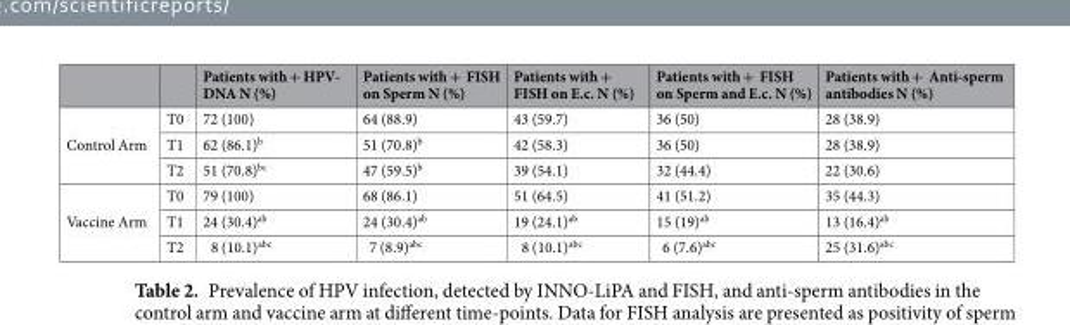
<table><thead><tr><td></td><td></td><td>Patients with + HPV- DNA N (%)</td><td>Patients with + FISH on Sperm N (%)</td><td>Patients with + FISH on E.c. N (%)</td><td>Patients with + FISH on Sperm and E.c. N (%)</td><td>Patients with + Anti-sperm antibodies N (%)</td></tr></thead><tbody><tr><td rowspan="3">Control Arm</td><td>T0</td><td>72 (100)</td><td>64 (88.9)</td><td>43 (59.7)</td><td>36 (50)</td><td>28 (38.9)</td></tr><tr><td>T1</td><td>62 (86.1)<sup>b</sup></td><td>51 (70.8)<sup>b</sup></td><td>42 (58.3)</td><td>36 (50)</td><td>28 (38.9)</td></tr><tr><td>T2</td><td>51 (70.8)<sup>bc</sup></td><td>47 (59.5)<sup>b</sup></td><td>39 (54.1)</td><td>32 (44.4)</td><td>22 (30.6)</td></tr><tr><td rowspan="3">Vaccine Arm</td><td>T0</td><td>79 (100)</td><td>68 (86.1)</td><td>51 (64.5)</td><td>41 (51.2)</td><td>35 (44.3)</td></tr><tr><td>T1</td><td>24 (30.4)<sup>ab</sup></td><td>24 (30.4)<sup>ab</sup></td><td>19 (24.1)<sup>ab</sup></td><td>15 (19)<sup>ab</sup></td><td>13 (16.4)<sup>ab</sup></td></tr><tr><td>T2</td><td>8 (10.1)<sup>abc</sup></td><td>7 (8.9)<sup>abc</sup></td><td>8 (10.1)<sup>abc</sup></td><td>6 (7.6)<sup>abc</sup></td><td>25 (31.6)<sup>abc</sup></td></tr></tbody></table>